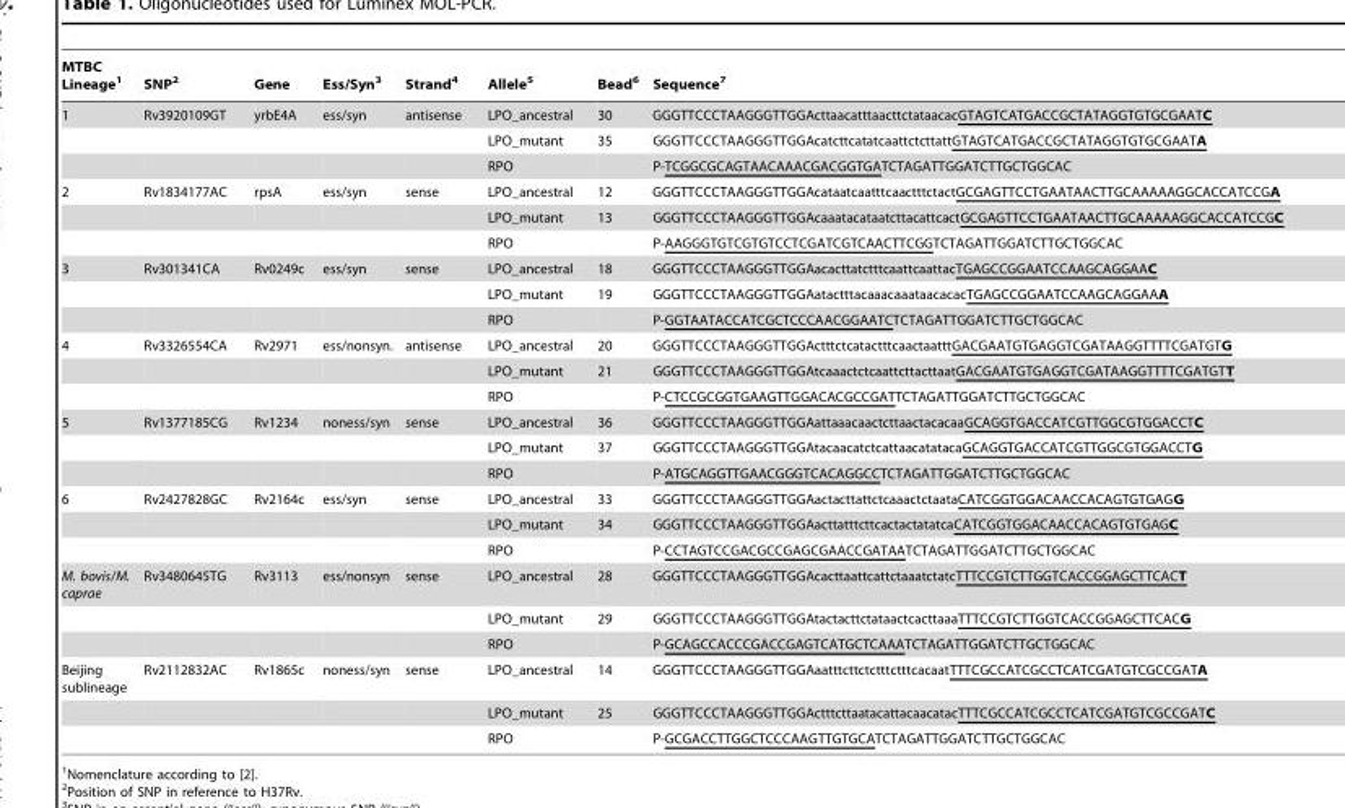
<table><thead><tr><td>MTBC Lineage<sup>1</sup></td><td>SNP<sup>2</sup></td><td>Gene</td><td>Ess/Syn<sup>3</sup></td><td>Strand<sup>4</sup></td><td>Allele<sup>5</sup></td><td>Bead<sup>6</sup></td><td>Sequence<sup>7</sup></td></tr></thead><tbody><tr><td rowspan="3">1</td><td>Rv3920109GT</td><td>yrbE4A</td><td>ess/syn</td><td>antisense</td><td>LPO_ancestral</td><td>30</td><td>GGGTTCCCTAAGGGTTGGActtaacatttaacttctataacacGTAGTCATGACCGCTATAGGTGTGCGAATC</td></tr><tr><td></td><td></td><td></td><td></td><td>LPO_mutant</td><td>35</td><td>GGGTTCCCTAAGGGTTGGAcatcttcatatcaattctcttattGTAGTCATGACCGCTATAGGTGTGCGAATA</td></tr><tr><td></td><td></td><td></td><td></td><td>RPO</td><td></td><td>P-TCGGCGCAGTAACAAACGACGGTGATCTAGATTGGATCTTGCTGGCAC</td></tr><tr><td rowspan="3">2</td><td>Rv1834177AC</td><td>rpsA</td><td>ess/syn</td><td>sense</td><td>LPO_ancestral</td><td>12</td><td>GGGTTCCCTAAGGGTTGGAcataatcaatttcaactttctactGCGAGTTCCTGAATAACTTGCAAAAAGGCACCATCCGA</td></tr><tr><td></td><td></td><td></td><td></td><td>LPO_mutant</td><td>13</td><td>GGGTTCCCTAAGGGTTGGAcaaatacataatcttacattcactGCGAGTTCCTGAATAACTTGCAAAAAGGCACCATCCGC</td></tr><tr><td></td><td></td><td></td><td></td><td>RPO</td><td></td><td>P-AAGGGTGTCGTGTCCTCGATCGTCAACTTCGGTCTAGATTGGATCTTGCTGGCAC</td></tr><tr><td rowspan="3">3</td><td>Rv301341CA</td><td>Rv0249c</td><td>ess/syn</td><td>sense</td><td>LPO_ancestral</td><td>18</td><td>GGGTTCCCTAAGGGTTGGAacacttatctttcaattcaattacTGAGCCGGAATCCAAGCAGGAAC</td></tr><tr><td></td><td></td><td></td><td></td><td>LPO_mutant</td><td>19</td><td>GGGTTCCCTAAGGGTTGGAatactttacaaacaaataacacacTGAGCCGGAATCCAAGCAGGAAA</td></tr><tr><td></td><td></td><td></td><td></td><td>RPO</td><td></td><td>P-GGTAATACCATCGCTCCCAACGGAATCTCTAGATTGGATCTTGCTGGCAC</td></tr><tr><td rowspan="3">4</td><td>Rv3326554CA</td><td>Rv2971</td><td>ess/nonsyn.</td><td>antisense</td><td>LPO_ancestral</td><td>20</td><td>GGGTTCCCTAAGGGTTGGActttctcatactttcaactaatttGACGAATGTGAGGTCGATAAGGTTTTCGATGTG</td></tr><tr><td></td><td></td><td></td><td></td><td>LPO_mutant</td><td>21</td><td>GGGTTCCCTAAGGGTTGGAtcaaactctcaattcttacttaatGACGAATGTGAGGTCGATAAGGTTTTCGATGTT</td></tr><tr><td></td><td></td><td></td><td></td><td>RPO</td><td></td><td>P-CTCCGCGGTGAAGTTGGACACGCCGATTCTAGATTGGATCTTGCTGGCAC</td></tr><tr><td rowspan="3">5</td><td>Rv1377185CG</td><td>Rv1234</td><td>noness/syn</td><td>sense</td><td>LPO_ancestral</td><td>36</td><td>GGGTTCCCTAAGGGTTGGAattaaacaactcttaactacacaaGCAGGTGACCATCGTTGGCGTGGACCTC</td></tr><tr><td></td><td></td><td></td><td></td><td>LPO_mutant</td><td>37</td><td>GGGTTCCCTAAGGGTTGGAtacaacatctcattaacatatacaGCAGGTGACCATCGTTGGCGTGGACCTG</td></tr><tr><td></td><td></td><td></td><td></td><td>RPO</td><td></td><td>P-ATGCAGGTTGAACGGGTCACAGGCCTCTAGATTGGATCTTGCTGGCAC</td></tr><tr><td rowspan="3">6</td><td>Rv2427828GC</td><td>Rv2164c</td><td>ess/syn</td><td>sense</td><td>LPO_ancestral</td><td>33</td><td>GGGTTCCCTAAGGGTTGGAactacttattctcaaactctaataCATCGGTGGACAACCACAGTGTGAGG</td></tr><tr><td></td><td></td><td></td><td></td><td>LPO_mutant</td><td>34</td><td>GGGTTCCCTAAGGGTTGGAacttatttcttcactactatatcaCATCGGTGGACAACCACAGTGTGAGC</td></tr><tr><td></td><td></td><td></td><td></td><td>RPO</td><td></td><td>P-CCTAGTCCGACGCCGAGCGAACCGATAATCTAGATTGGATCTTGCTGGCAC</td></tr><tr><td rowspan="3">M. bovis/M. caprae</td><td>Rv3480645TG</td><td>Rv3113</td><td>ess/nonsyn</td><td>sense</td><td>LPO_ancestral</td><td>28</td><td>GGGTTCCCTAAGGGTTGGAcacttaattcattctaaatctatcTTTCCGTCTTGGTCACCGGAGCTTCACT</td></tr><tr><td></td><td></td><td></td><td></td><td>LPO_mutant</td><td>29</td><td>GGGTTCCCTAAGGGTTGGAtactacttctataactcacttaaaTTTCCGTCTTGGTCACCGGAGCTTCACG</td></tr><tr><td></td><td></td><td></td><td></td><td>RPO</td><td></td><td>P-GCAGCCACCCGACCGAGTCATGCTCAAATCTAGATTGGATCTTGCTGGCAC</td></tr><tr><td rowspan="3">Beijing sublineage</td><td>Rv2112832AC</td><td>Rv1865c</td><td>noness/syn</td><td>sense</td><td>LPO_ancestral</td><td>14</td><td>GGGTTCCCTAAGGGTTGGAaatttcttctctttctttcacaatTTTCGCCATCGCCTCATCGATGTCGCCGATA</td></tr><tr><td></td><td></td><td></td><td></td><td>LPO_mutant</td><td>25</td><td>GGGTTCCCTAAGGGTTGGActttcttaatacattacaacatacTTTCGCCATCGCCTCATCGATGTCGCCGATC</td></tr><tr><td></td><td></td><td></td><td></td><td>RPO</td><td></td><td>P-GCGACCTTGGCTCCCAAGTTGTGCATCTAGATTGGATCTTGCTGGCAC</td></tr></tbody></table>